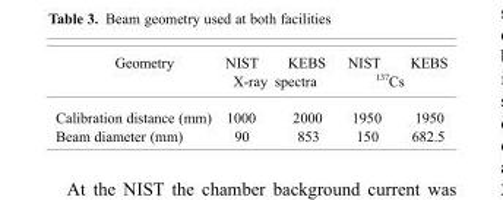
<table><thead><tr><td rowspan="2">Geometry</td><td>NIST</td><td>KEBS</td><td>NIST</td><td>KEBS</td></tr><tr><td colspan="2">X-ray spectra</td><td colspan="2"><sup>137</sup>Cs</td></tr></thead><tbody><tr><td>Calibration distance (mm)</td><td>1000</td><td>2000</td><td>1950</td><td>1950</td></tr><tr><td>Beam diameter (mm)</td><td>90</td><td>853</td><td>150</td><td>682.5</td></tr></tbody></table>